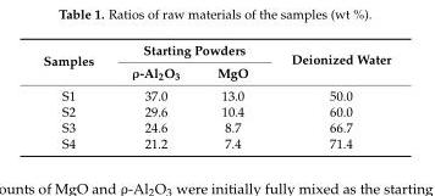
<table><thead><tr><td rowspan="2">Samples</td><td colspan="2">Starting Powders</td><td rowspan="2">Deionized Water</td></tr><tr><td>ρ-Al<sub>2</sub>O<sub>3</sub></td><td>MgO</td></tr></thead><tbody><tr><td>S1</td><td>37.0</td><td>13.0</td><td>50.0</td></tr><tr><td>S2</td><td>29.6</td><td>10.4</td><td>60.0</td></tr><tr><td>S3</td><td>24.6</td><td>8.7</td><td>66.7</td></tr><tr><td>S4</td><td>21.2</td><td>7.4</td><td>71.4</td></tr></tbody></table>